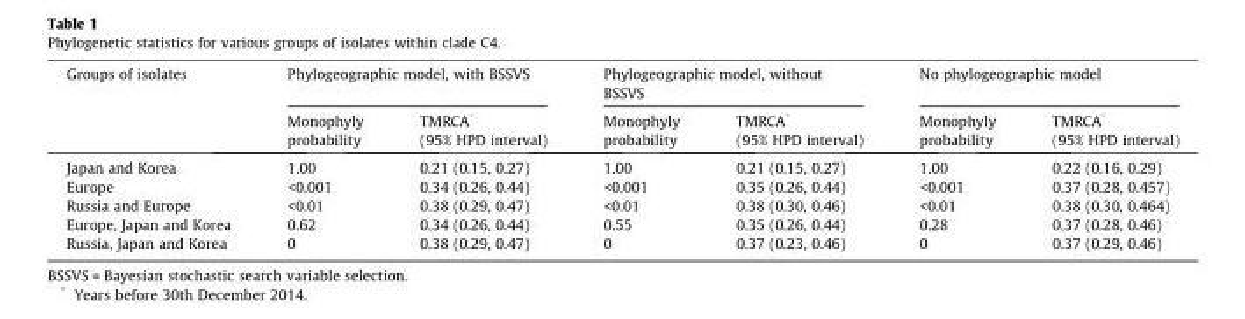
<table><thead><tr><td rowspan="2">Groups of isolates</td><td colspan="2">Phylogeographic model, with BSSVS</td><td colspan="2">Phylogeographic model, without BSSVS</td><td colspan="2">No phylogeographic model</td></tr><tr><td>Monophyly probability</td><td>TMRCA* (95% HPD interval)</td><td>Monophyly probability</td><td>TMRCA* (95% HPD interval)</td><td>Monophyly probability</td><td>TMRCA* (95% HPD interval)</td></tr></thead><tbody><tr><td>Japan and Korea</td><td>1.00</td><td>0.21 (0.15, 0.27)</td><td>1.00</td><td>0.21 (0.15, 0.27)</td><td>1.00</td><td>0.22 (0.16, 0.29)</td></tr><tr><td>Europe</td><td>&lt;0.001</td><td>0.34 (0.26, 0.44)</td><td>&lt;0.001</td><td>0.35 (0.26, 0.44)</td><td>&lt;0.001</td><td>0.37 (0.28, 0.457)</td></tr><tr><td>Russia and Europe</td><td>&lt;0.01</td><td>0.38 (0.29, 0.47)</td><td>&lt;0.01</td><td>0.38 (0.30, 0.46)</td><td>&lt;0.01</td><td>0.38 (0.30, 0.464)</td></tr><tr><td>Europe, Japan and Korea</td><td>0.62</td><td>0.34 (0.26, 0.44)</td><td>0.55</td><td>0.35 (0.26, 0.44)</td><td>0.28</td><td>0.37 (0.28, 0.46)</td></tr><tr><td>Russia, Japan and Korea</td><td>0</td><td>0.38 (0.29, 0.47)</td><td>0</td><td>0.37 (0.23, 0.46)</td><td>0</td><td>0.37 (0.29, 0.46)</td></tr></tbody></table>